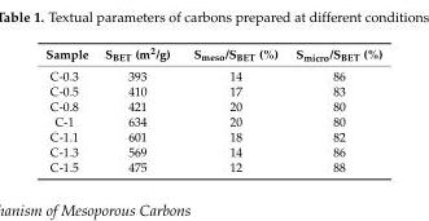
<table><thead><tr><td>Sample</td><td>S<sub>BET</sub> (m<sup>2</sup>/g)</td><td>S<sub>meso</sub>/S<sub>BET</sub> (%)</td><td>S<sub>micro</sub>/S<sub>BET</sub> (%)</td></tr></thead><tbody><tr><td>C-0.3</td><td>393</td><td>14</td><td>86</td></tr><tr><td>C-0.5</td><td>410</td><td>17</td><td>83</td></tr><tr><td>C-0.8</td><td>421</td><td>20</td><td>80</td></tr><tr><td>C-1</td><td>634</td><td>20</td><td>80</td></tr><tr><td>C-1.1</td><td>601</td><td>18</td><td>82</td></tr><tr><td>C-1.3</td><td>569</td><td>14</td><td>86</td></tr><tr><td>C-1.5</td><td>475</td><td>12</td><td>88</td></tr></tbody></table>